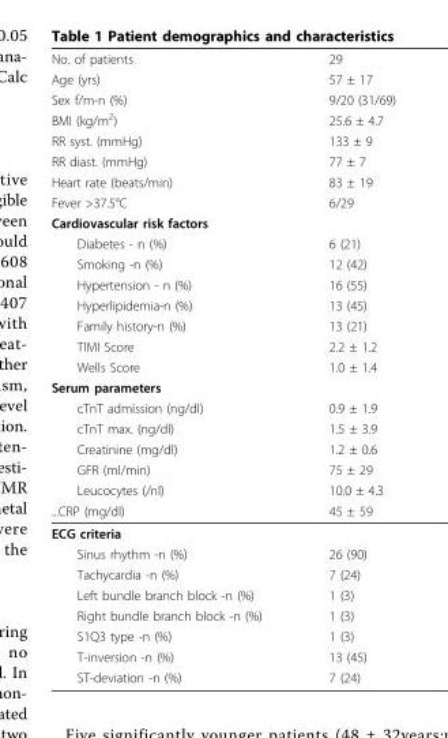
<table><thead><tr><td rowspan="23">No. of patients Age (yrs) Sex f/m-n (%) BMI (kg/m2) RR syst. (mmHg) RR diast. (mmHg) Heart rate (beats/min) Fever &gt;37.5°C Cardiovascular risk factors Diabetes - n (%) Smoking -n (%) Hypertension - n (%) Hyperlipidemia-n (%) Family history-n (%) TIMI Score Wells Score Serum parameters cTnT admission (ng/dl) cTnT max. (ng/dl) Creatinine (mg/dl) GFR (ml/min) Leucocytes (/nl) ...CRP (mg/dl)</td><td rowspan="23">29 57 ± 17 9/20 (31/69) 25.6 ± 4.7 133 ± 9 77 ± 7 83 ± 19 6/29 6 (21) 12 (42) 16 (55) 13 (45) 13 (21) 2.2 ± 1.2 1.0 ± 1.4 0.9 ± 1.9 1.5 ± 3.9 1.2 ± 0.6 75 ± 29 10.0 ± 4.3 45 ± 59</td></tr><tr></tr><tr></tr><tr></tr><tr></tr><tr></tr><tr></tr><tr></tr><tr></tr><tr></tr><tr></tr><tr></tr><tr></tr><tr></tr><tr></tr><tr></tr><tr></tr><tr></tr><tr></tr><tr></tr><tr></tr><tr></tr><tr></tr></thead><tbody><tr><td colspan="2">ECG criteria</td></tr><tr><td>Sinus rhythm -n (%)</td><td>26 (90)</td></tr><tr><td>Tachycardia -n (%)</td><td>7 (24)</td></tr><tr><td>Left bundle branch block -n (%)</td><td>1 (3)</td></tr><tr><td>Right bundle branch block -n (%)</td><td>1 (3)</td></tr><tr><td>S1Q3 type -n (%)</td><td>1 (3)</td></tr><tr><td>T-inversion -n (%)</td><td>13 (45)</td></tr><tr><td>ST-deviation -n (%)</td><td>7 (24)</td></tr></tbody></table>